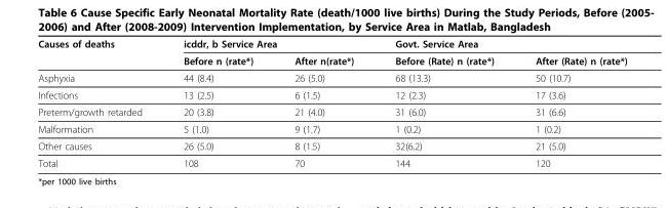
<table><thead><tr><td rowspan="2">Causes of deaths</td><td colspan="2">icddr, b Service Area</td><td colspan="2">Govt. Service Area</td></tr><tr><td>Before n (rate*)</td><td>After n(rate*)</td><td>Before (Rate) n (rate*)</td><td>After (Rate) n (rate*)</td></tr></thead><tbody><tr><td>Asphyxia</td><td>44 (8.4)</td><td>26 (5.0)</td><td>68 (13.3)</td><td>50 (10.7)</td></tr><tr><td>Infections</td><td>13 (2.5)</td><td>6 (1.5)</td><td>12 (2.3)</td><td>17 (3.6)</td></tr><tr><td>Preterm/growth retarded</td><td>20 (3.8)</td><td>21 (4.0)</td><td>31 (6.0)</td><td>31 (6.6)</td></tr><tr><td>Malformation</td><td>5 (1.0)</td><td>9 (1.7)</td><td>1 (0.2)</td><td>1 (0.2)</td></tr><tr><td>Other causes</td><td>26 (5.0)</td><td>8 (1.5)</td><td>32(6.2)</td><td>21 (5.0)</td></tr><tr><td>Total</td><td>108</td><td>70</td><td>144</td><td>120</td></tr></tbody></table>